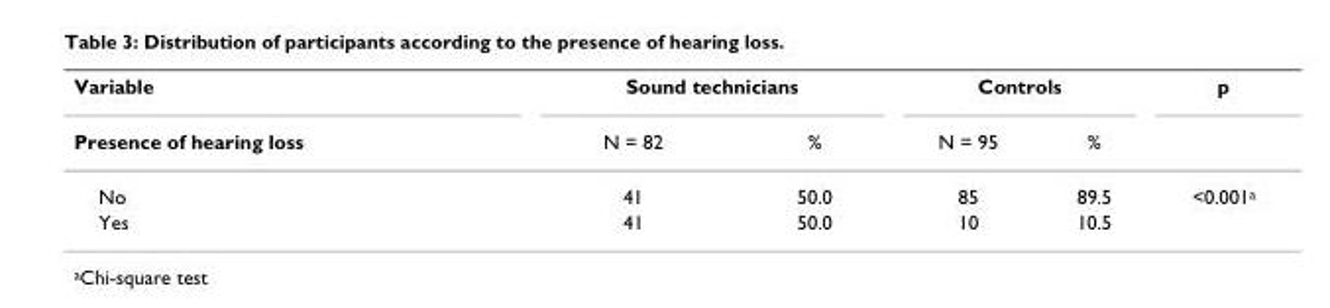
<table><thead><tr><td rowspan="2">Variable Presence of hearing loss</td><td colspan="2">Sound technicians</td><td colspan="2">Controls</td><td rowspan="2">p</td></tr><tr><td>N = 82</td><td>%</td><td>N = 95</td><td>%</td></tr></thead><tbody><tr><td>No</td><td>41</td><td>50.0</td><td>85</td><td>89.5</td><td>&lt;0.001<sup>a</sup></td></tr><tr><td>Yes</td><td>41</td><td>50.0</td><td>10</td><td>10.5</td><td></td></tr></tbody></table>